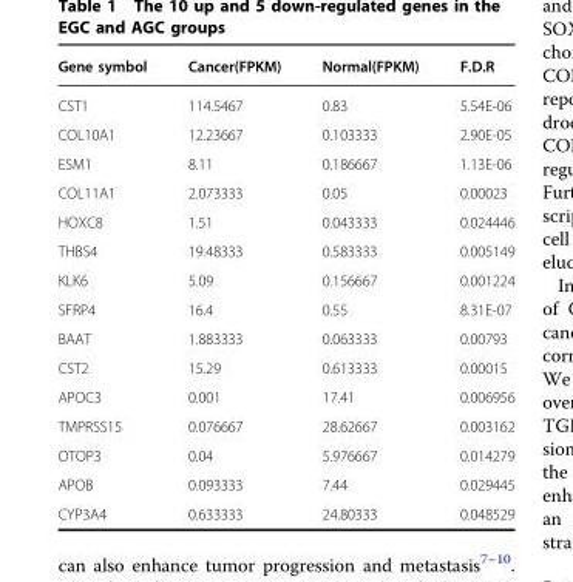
<table><thead><tr><td>Gene symbol</td><td>Cancer(FPKM)</td><td>Normal(FPKM)</td><td>F.D.R</td></tr></thead><tbody><tr><td>CST1</td><td>114.5467</td><td>0.83</td><td>5.54E-06</td></tr><tr><td>COL10A1</td><td>12.23667</td><td>0.103333</td><td>2.90E-05</td></tr><tr><td>ESM1</td><td>8.11</td><td>0.186667</td><td>1.13E-06</td></tr><tr><td>COL11A1</td><td>2.073333</td><td>0.05</td><td>0.00023</td></tr><tr><td>HOXC8</td><td>1.51</td><td>0.043333</td><td>0.024446</td></tr><tr><td>THBS4</td><td>19.48333</td><td>0.583333</td><td>0.005149</td></tr><tr><td>KLK6</td><td>5.09</td><td>0.156667</td><td>0.001224</td></tr><tr><td>SFRP4</td><td>16.4</td><td>0.55</td><td>8.31E-07</td></tr><tr><td>BAAT</td><td>1.883333</td><td>0.063333</td><td>0.00793</td></tr><tr><td>CST2</td><td>15.29</td><td>0.613333</td><td>0.00015</td></tr><tr><td>APOC3</td><td>0.001</td><td>17.41</td><td>0.006956</td></tr><tr><td>TMPRSS15</td><td>0.076667</td><td>28.62667</td><td>0.003162</td></tr><tr><td>OTOP3</td><td>0.04</td><td>5.976667</td><td>0.014279</td></tr><tr><td>APOB</td><td>0.093333</td><td>7.44</td><td>0.029445</td></tr><tr><td>CYP3A4</td><td>0.633333</td><td>24.80333</td><td>0.048529</td></tr></tbody></table>